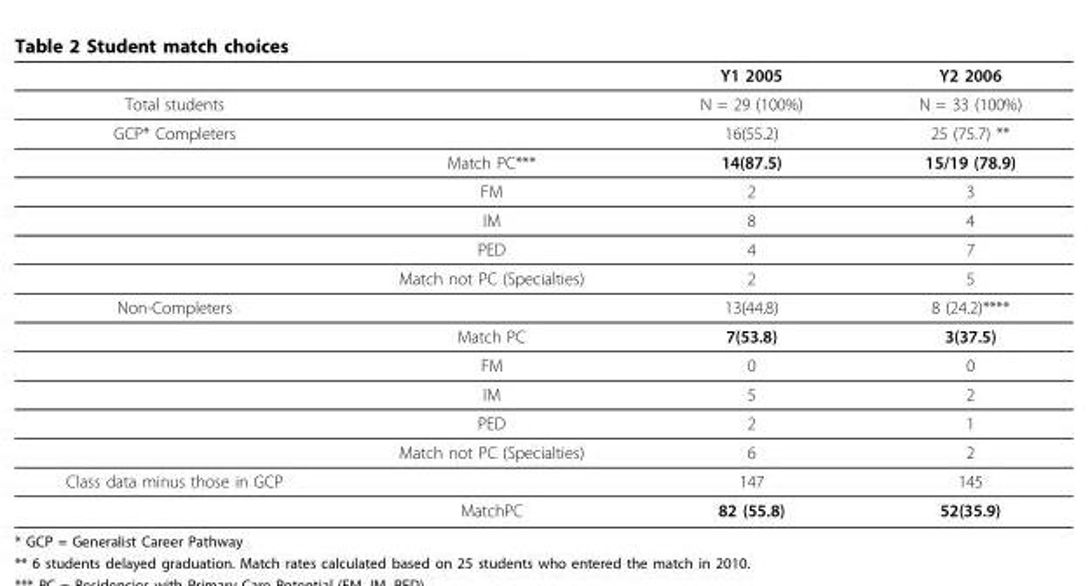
<table><thead><tr><td></td><td></td><td>Y1 2005</td><td>Y2 2006</td></tr></thead><tbody><tr><td>Total students</td><td></td><td>N = 29 (100%)</td><td>N = 33 (100%)</td></tr><tr><td rowspan="6">GCP* Completers</td><td></td><td>16(55.2)</td><td>25 (75.7) **</td></tr><tr><td>Match PC***</td><td>14(87.5)</td><td>15/19 (78.9)</td></tr><tr><td>FM</td><td>2</td><td>3</td></tr><tr><td>IM</td><td>8</td><td>4</td></tr><tr><td>PED</td><td>4</td><td>7</td></tr><tr><td>Match not PC (Specialties)</td><td>2</td><td>5</td></tr><tr><td rowspan="6">Non-Completers</td><td></td><td>13(44.8)</td><td>8 (24.2)****</td></tr><tr><td>Match PC</td><td>7(53.8)</td><td>3(37.5)</td></tr><tr><td>FM</td><td>0</td><td>0</td></tr><tr><td>IM</td><td>5</td><td>2</td></tr><tr><td>PED</td><td>2</td><td>1</td></tr><tr><td>Match not PC (Specialties)</td><td>6</td><td>2</td></tr><tr><td rowspan="2">Class data minus those in GCP</td><td></td><td>147</td><td>145</td></tr><tr><td>MatchPC</td><td>82 (55.8)</td><td>52(35.9)</td></tr></tbody></table>